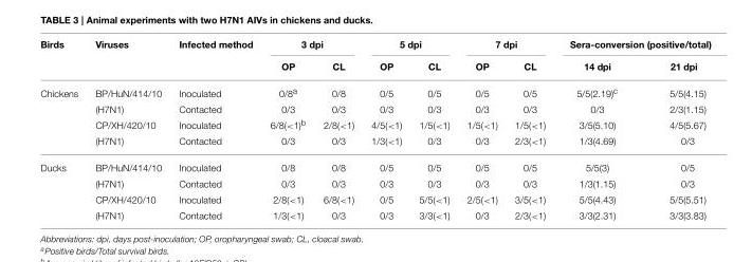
<table><thead><tr><td rowspan="2">Birds</td><td rowspan="2">Viruses</td><td rowspan="2">Infected method</td><td colspan="2">3 dpi</td><td colspan="2">5 dpi</td><td colspan="2">7 dpi</td><td colspan="2">Sera-conversion (positive/total)</td></tr><tr><td>OP</td><td>CL</td><td>OP</td><td>CL</td><td>OP</td><td>CL</td><td>14 dpi</td><td>21 dpi</td></tr></thead><tbody><tr><td rowspan="4">Chickens</td><td>BP/HuN/414/10</td><td>Inoculated</td><td>0/8<sup>a</sup></td><td>0/8</td><td>0/5</td><td>0/5</td><td>0/5</td><td>0/5</td><td>5/5(2.19)<sup>c</sup></td><td>5/5(4.15)</td></tr><tr><td>(H7N1)</td><td>Contacted</td><td>0/3</td><td>0/3</td><td>0/3</td><td>0/3</td><td>0/3</td><td>0/3</td><td>0/3</td><td>2/3(1.15)</td></tr><tr><td>CP/XH/420/10</td><td>Inoculated</td><td>6/8(&lt;1)<sup>b</sup></td><td>2/8(&lt;1)</td><td>4/5(&lt;1)</td><td>1/5(&lt;1)</td><td>1/5(&lt;1)</td><td>1/5(&lt;1)</td><td>3/5(5.10)</td><td>4/5(5.67)</td></tr><tr><td>(H7N1)</td><td>Contacted</td><td>0/3</td><td>0/3</td><td>1/3(&lt;1)</td><td>0/3</td><td>0/3</td><td>2/3(&lt;1)</td><td>1/3(4.69)</td><td>0/3</td></tr><tr><td rowspan="4">Ducks</td><td>BP/HuN/414/10</td><td>Inoculated</td><td>0/8</td><td>0/8</td><td>0/5</td><td>0/5</td><td>0/5</td><td>0/5</td><td>5/5(3)</td><td>0/5</td></tr><tr><td>(H7N1)</td><td>Contacted</td><td>0/3</td><td>0/3</td><td>0/3</td><td>0/3</td><td>0/3</td><td>0/3</td><td>1/3(1.15)</td><td>0/3</td></tr><tr><td>CP/XH/420/10</td><td>Inoculated</td><td>2/8(&lt;1)</td><td>6/8(&lt;1)</td><td>0/5</td><td>5/5(&lt;1)</td><td>2/5(&lt;1)</td><td>3/5(&lt;1)</td><td>5/5(4.43)</td><td>5/5(5.51)</td></tr><tr><td>(H7N1)</td><td>Contacted</td><td>1/3(&lt;1)</td><td>0/3</td><td>0/3</td><td>3/3(&lt;1)</td><td>0/3</td><td>2/3(&lt;1)</td><td>3/3(2.31)</td><td>3/3(3.83)</td></tr></tbody></table>